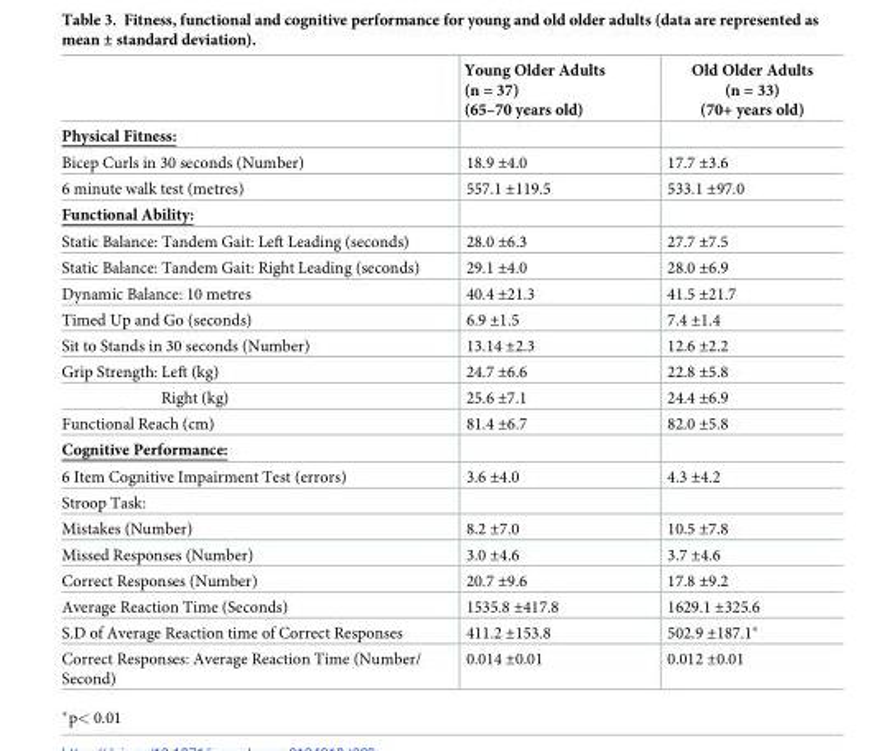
<table><thead><tr><td></td><td>Young Older Adults (n = 37) (65–70 years old)</td><td>Old Older Adults (n = 33) (70+ years old)</td></tr></thead><tbody><tr><td colspan="3">Physical Fitness:</td></tr><tr><td>Bicep Curls in 30 seconds (Number)</td><td>18.9 ±4.0</td><td>17.7 ±3.6</td></tr><tr><td>6 minute walk test (metres)</td><td>557.1 ±119.5</td><td>533.1 ±97.0</td></tr><tr><td colspan="3">Functional Ability:</td></tr><tr><td>Static Balance: Tandem Gait: Left Leading (seconds)</td><td>28.0 ±6.3</td><td>27.7 ±7.5</td></tr><tr><td>Static Balance: Tandem Gait: Right Leading (seconds)</td><td>29.1 ±4.0</td><td>28.0 ±6.9</td></tr><tr><td>Dynamic Balance: 10 metres</td><td>40.4 ±21.3</td><td>41.5 ±21.7</td></tr><tr><td>Timed Up and Go (seconds)</td><td>6.9 ±1.5</td><td>7.4 ±1.4</td></tr><tr><td>Sit to Stands in 30 seconds (Number)</td><td>13.14 ±2.3</td><td>12.6 ±2.2</td></tr><tr><td>Grip Strength: Left (kg)</td><td>24.7 ±6.6</td><td>22.8 ±5.8</td></tr><tr><td>Right (kg)</td><td>25.6 ±7.1</td><td>24.4 ±6.9</td></tr><tr><td>Functional Reach (cm)</td><td>81.4 ±6.7</td><td>82.0 ±5.8</td></tr><tr><td colspan="3">Cognitive Performance:</td></tr><tr><td>6 Item Cognitive Impairment Test (errors)</td><td>3.6 ±4.0</td><td>4.3 ±4.2</td></tr><tr><td colspan="3">Stroop Task:</td></tr><tr><td>Mistakes (Number)</td><td>8.2 ±7.0</td><td>10.5 ±7.8</td></tr><tr><td>Missed Responses (Number)</td><td>3.0 ±4.6</td><td>3.7 ±4.6</td></tr><tr><td>Correct Responses (Number)</td><td>20.7 ±9.6</td><td>17.8 ±9.2</td></tr><tr><td>Average Reaction Time (Seconds)</td><td>1535.8 ±417.8</td><td>1629.1 ±325.6</td></tr><tr><td>S.D of Average Reaction time of Correct Responses</td><td>411.2 ±153.8</td><td>502.9 ±187.1*</td></tr><tr><td>Correct Responses: Average Reaction Time (Number/ Second)</td><td>0.014 ±0.01</td><td>0.012 ±0.01</td></tr></tbody></table>